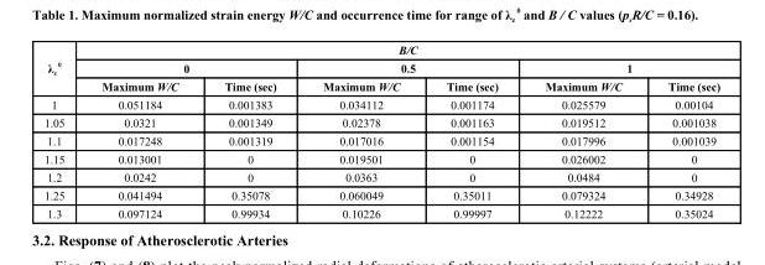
<table><thead><tr><td rowspan="3">λ<sub>z</sub> <sup>0</sup></td><td colspan="6">B/C</td></tr><tr><td colspan="2">0</td><td colspan="2">0.5</td><td colspan="2">1</td></tr><tr><td>Maximum W/C</td><td>Time (sec)</td><td>Maximum W/C</td><td>Time (sec)</td><td>Maximum W/C</td><td>Time (sec)</td></tr></thead><tbody><tr><td>1</td><td>0.051184</td><td>0.001383</td><td>0.034112</td><td>0.001174</td><td>0.025579</td><td>0.00104</td></tr><tr><td>1.05</td><td>0.0321</td><td>0.001349</td><td>0.02378</td><td>0.001163</td><td>0.019512</td><td>0.001038</td></tr><tr><td>1.1</td><td>0.017248</td><td>0.001319</td><td>0.017016</td><td>0.001154</td><td>0.017996</td><td>0.001039</td></tr><tr><td>1.15</td><td>0.013001</td><td>0</td><td>0.019501</td><td>0</td><td>0.026002</td><td>0</td></tr><tr><td>1.2</td><td>0.0242</td><td>0</td><td>0.0363</td><td>0</td><td>0.0484</td><td>0</td></tr><tr><td>1.25</td><td>0.041494</td><td>0.35078</td><td>0.060049</td><td>0.35011</td><td>0.079324</td><td>0.34928</td></tr><tr><td>1.3</td><td>0.097124</td><td>0.99934</td><td>0.10226</td><td>0.99997</td><td>0.12222</td><td>0.35024</td></tr></tbody></table>